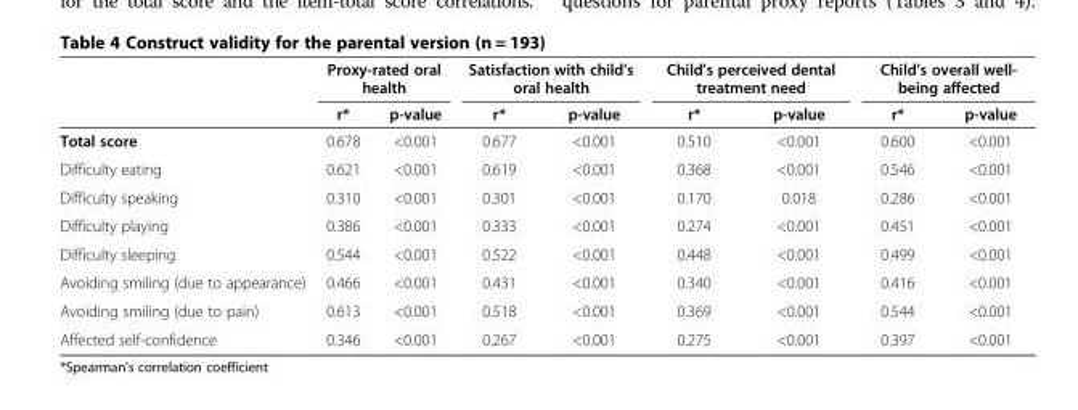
<table><thead><tr><td rowspan="2"></td><td colspan="2">Proxy-rated oral health</td><td colspan="2">Satisfaction with child’s oral health</td><td colspan="2">Child’s perceived dental treatment need</td><td colspan="2">Child’s overall well- being affected</td></tr><tr><td>r*</td><td>p-value</td><td>r*</td><td>p-value</td><td>r*</td><td>p-value</td><td>r*</td><td>p-value</td></tr></thead><tbody><tr><td>Total score</td><td>0.678</td><td>&lt;0.001</td><td>0.677</td><td>&lt;0.001</td><td>0.510</td><td>&lt;0.001</td><td>0.600</td><td>&lt;0.001</td></tr><tr><td>Difficulty eating</td><td>0.621</td><td>&lt;0.001</td><td>0.619</td><td>&lt;0.001</td><td>0.368</td><td>&lt;0.001</td><td>0.546</td><td>&lt;0.001</td></tr><tr><td>Difficulty speaking</td><td>0.310</td><td>&lt;0.001</td><td>0.301</td><td>&lt;0.001</td><td>0.170</td><td>0.018</td><td>0.286</td><td>&lt;0.001</td></tr><tr><td>Difficulty playing</td><td>0.386</td><td>&lt;0.001</td><td>0.333</td><td>&lt;0.001</td><td>0.274</td><td>&lt;0.001</td><td>0.451</td><td>&lt;0.001</td></tr><tr><td>Difficulty sleeping</td><td>0.544</td><td>&lt;0.001</td><td>0.522</td><td>&lt;0.001</td><td>0.448</td><td>&lt;0.001</td><td>0.499</td><td>&lt;0.001</td></tr><tr><td>Avoiding smiling (due to appearance)</td><td>0.466</td><td>&lt;0.001</td><td>0.431</td><td>&lt;0.001</td><td>0.340</td><td>&lt;0.001</td><td>0.416</td><td>&lt;0.001</td></tr><tr><td>Avoiding smiling (due to pain)</td><td>0.613</td><td>&lt;0.001</td><td>0.518</td><td>&lt;0.001</td><td>0.369</td><td>&lt;0.001</td><td>0.544</td><td>&lt;0.001</td></tr><tr><td>Affected self-confidence</td><td>0.346</td><td>&lt;0.001</td><td>0.267</td><td>&lt;0.001</td><td>0.275</td><td>&lt;0.001</td><td>0.397</td><td>&lt;0.001</td></tr></tbody></table>